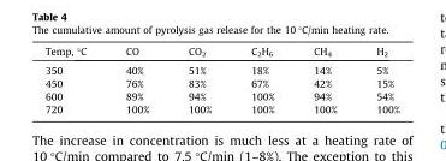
<table><thead><tr><td>Temp, °C</td><td>CO</td><td>CO<sub>2</sub></td><td>C<sub>2</sub>H<sub>6</sub></td><td>CH<sub>4</sub></td><td>H<sub>2</sub></td></tr></thead><tbody><tr><td>350</td><td>40%</td><td>51%</td><td>18%</td><td>14%</td><td>5%</td></tr><tr><td>450</td><td>76%</td><td>83%</td><td>67%</td><td>42%</td><td>15%</td></tr><tr><td>600</td><td>89%</td><td>94%</td><td>100%</td><td>94%</td><td>54%</td></tr><tr><td>720</td><td>100%</td><td>100%</td><td>100%</td><td>100%</td><td>100%</td></tr></tbody></table>